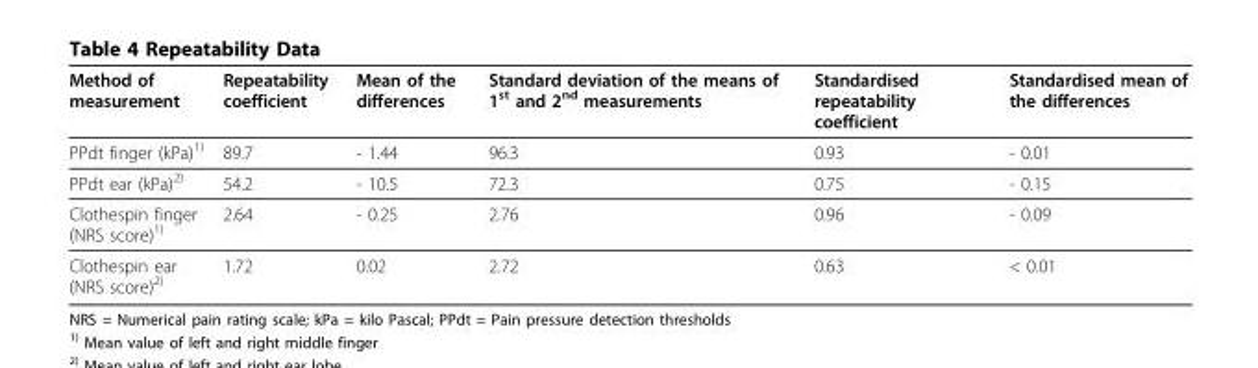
<table><thead><tr><td>Method of measurement</td><td>Repeatability coefficient</td><td>Mean of the differences</td><td>Standard deviation of the means of 1<sup>st</sup> and 2<sup>nd</sup> measurements</td><td>Standardised repeatability coefficient</td><td>Standardised mean of the differences</td></tr></thead><tbody><tr><td>PPdt finger (kPa)<sup>1)</sup></td><td>89.7</td><td>- 1.44</td><td>96.3</td><td>0.93</td><td>- 0.01</td></tr><tr><td>PPdt ear (kPa)<sup>2)</sup></td><td>54.2</td><td>- 10.5</td><td>72.3</td><td>0.75</td><td>- 0.15</td></tr><tr><td>Clothespin finger (NRS score)<sup>1)</sup></td><td>2.64</td><td>- 0.25</td><td>2.76</td><td>0.96</td><td>- 0.09</td></tr><tr><td>Clothespin ear (NRS score)<sup>2)</sup></td><td>1.72</td><td>0.02</td><td>2.72</td><td>0.63</td><td>&lt; 0.01</td></tr></tbody></table>